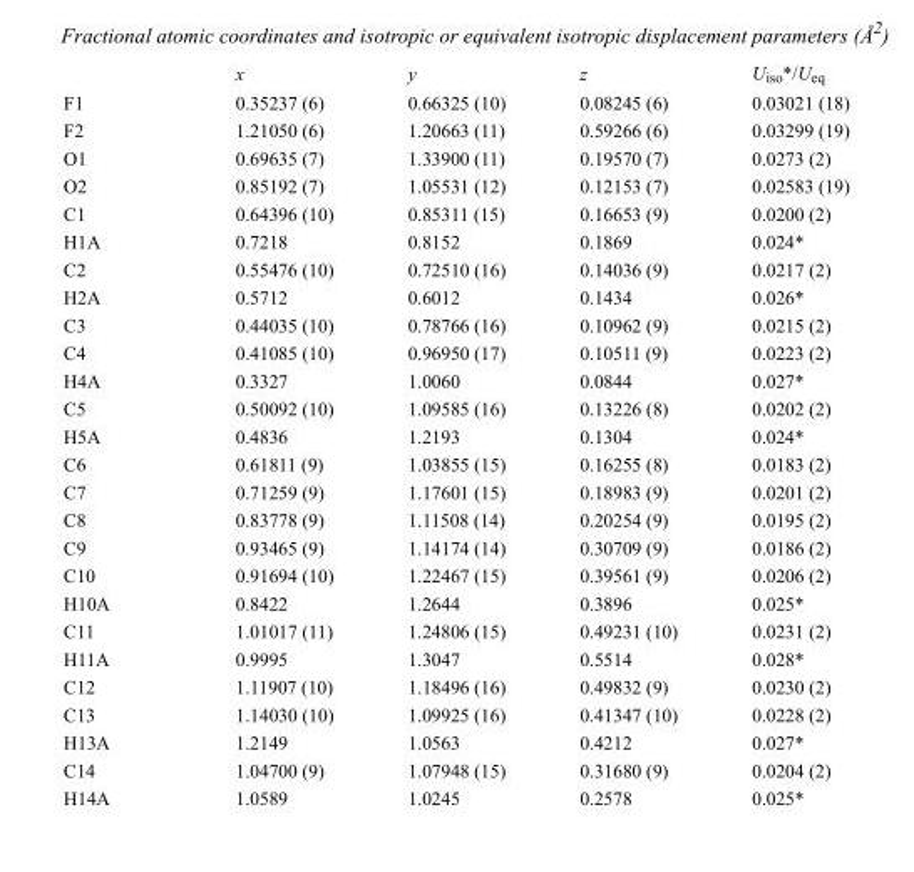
<table><thead><tr><td></td><td>x</td><td>y</td><td>z</td><td>U<sub>iso</sub>*/U<sub>eq</sub></td></tr></thead><tbody><tr><td>F1</td><td>0.35237 (6)</td><td>0.66325 (10)</td><td>0.08245 (6)</td><td>0.03021 (18)</td></tr><tr><td>F2</td><td>1.21050 (6)</td><td>1.20663 (11)</td><td>0.59266 (6)</td><td>0.03299 (19)</td></tr><tr><td>O1</td><td>0.69635 (7)</td><td>1.33900 (11)</td><td>0.19570 (7)</td><td>0.0273 (2)</td></tr><tr><td>O2</td><td>0.85192 (7)</td><td>1.05531 (12)</td><td>0.12153 (7)</td><td>0.02583 (19)</td></tr><tr><td>C1</td><td>0.64396 (10)</td><td>0.85311 (15)</td><td>0.16653 (9)</td><td>0.0200 (2)</td></tr><tr><td>H1A</td><td>0.7218</td><td>0.8152</td><td>0.1869</td><td>0.024*</td></tr><tr><td>C2</td><td>0.55476 (10)</td><td>0.72510 (16)</td><td>0.14036 (9)</td><td>0.0217 (2)</td></tr><tr><td>H2A</td><td>0.5712</td><td>0.6012</td><td>0.1434</td><td>0.026*</td></tr><tr><td>C3</td><td>0.44035 (10)</td><td>0.78766 (16)</td><td>0.10962 (9)</td><td>0.0215 (2)</td></tr><tr><td>C4</td><td>0.41085 (10)</td><td>0.96950 (17)</td><td>0.10511 (9)</td><td>0.0223 (2)</td></tr><tr><td>H4A</td><td>0.3327</td><td>1.0060</td><td>0.0844</td><td>0.027*</td></tr><tr><td>C5</td><td>0.50092 (10)</td><td>1.09585 (16)</td><td>0.13226 (8)</td><td>0.0202 (2)</td></tr><tr><td>H5A</td><td>0.4836</td><td>1.2193</td><td>0.1304</td><td>0.024*</td></tr><tr><td>C6</td><td>0.61811 (9)</td><td>1.03855 (15)</td><td>0.16255 (8)</td><td>0.0183 (2)</td></tr><tr><td>C7</td><td>0.71259 (9)</td><td>1.17601 (15)</td><td>0.18983 (9)</td><td>0.0201 (2)</td></tr><tr><td>C8</td><td>0.83778 (9)</td><td>1.11508 (14)</td><td>0.20254 (9)</td><td>0.0195 (2)</td></tr><tr><td>C9</td><td>0.93465 (9)</td><td>1.14174 (14)</td><td>0.30709 (9)</td><td>0.0186 (2)</td></tr><tr><td>C10</td><td>0.91694 (10)</td><td>1.22467 (15)</td><td>0.39561 (9)</td><td>0.0206 (2)</td></tr><tr><td>H10A</td><td>0.8422</td><td>1.2644</td><td>0.3896</td><td>0.025*</td></tr><tr><td>C11</td><td>1.01017 (11)</td><td>1.24806 (15)</td><td>0.49231 (10)</td><td>0.0231 (2)</td></tr><tr><td>H11A</td><td>0.9995</td><td>1.3047</td><td>0.5514</td><td>0.028*</td></tr><tr><td>C12</td><td>1.11907 (10)</td><td>1.18496 (16)</td><td>0.49832 (9)</td><td>0.0230 (2)</td></tr><tr><td>C13</td><td>1.14030 (10)</td><td>1.09925 (16)</td><td>0.41347 (10)</td><td>0.0228 (2)</td></tr><tr><td>H13A</td><td>1.2149</td><td>1.0563</td><td>0.4212</td><td>0.027*</td></tr><tr><td>C14</td><td>1.04700 (9)</td><td>1.07948 (15)</td><td>0.31680 (9)</td><td>0.0204 (2)</td></tr><tr><td>H14A</td><td>1.0589</td><td>1.0245</td><td>0.2578</td><td>0.025*</td></tr></tbody></table>